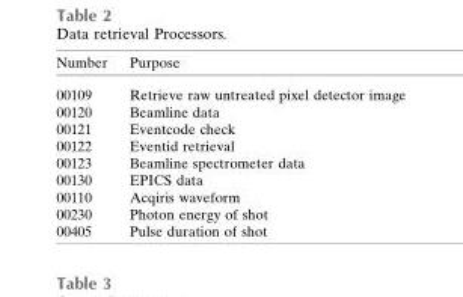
<table><thead><tr><td>Number</td><td>Purpose</td></tr></thead><tbody><tr><td>00109</td><td>Retrieve raw untreated pixel detector image</td></tr><tr><td>00120</td><td>Beamline data</td></tr><tr><td>00121</td><td>Eventcode check</td></tr><tr><td>00122</td><td>Eventid retrieval</td></tr><tr><td>00123</td><td>Beamline spectrometer data</td></tr><tr><td>00130</td><td>EPICS data</td></tr><tr><td>00110</td><td>Acqiris waveform</td></tr><tr><td>00230</td><td>Photon energy of shot</td></tr><tr><td>00405</td><td>Pulse duration of shot</td></tr></tbody></table>